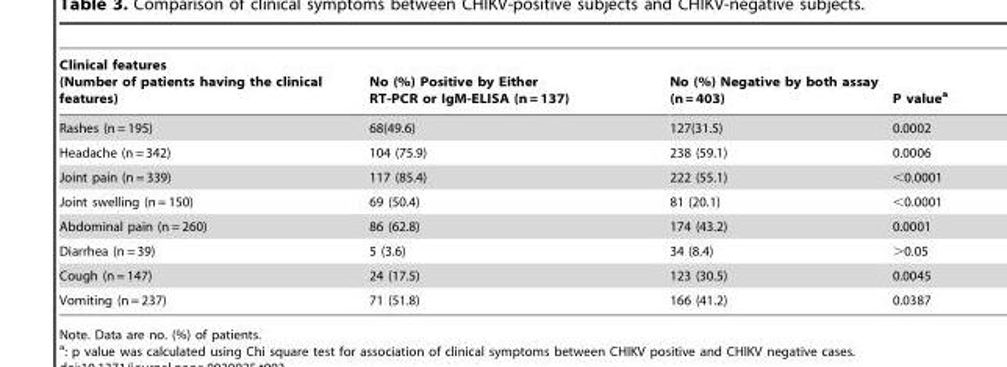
<table><thead><tr><td>Clinical features (Number of patients having the clinical features)</td><td>No (%) Positive by Either RT-PCR or IgM-ELISA (n = 137)</td><td>No (%) Negative by both assay (n = 403)</td><td>P value<sup>a</sup></td></tr></thead><tbody><tr><td>Rashes (n = 195)</td><td>68(49.6)</td><td>127(31.5)</td><td>0.0002</td></tr><tr><td>Headache (n = 342)</td><td>104 (75.9)</td><td>238 (59.1)</td><td>0.0006</td></tr><tr><td>Joint pain (n = 339)</td><td>117 (85.4)</td><td>222 (55.1)</td><td>&lt;0.0001</td></tr><tr><td>Joint swelling (n = 150)</td><td>69 (50.4)</td><td>81 (20.1)</td><td>&lt;0.0001</td></tr><tr><td>Abdominal pain (n = 260)</td><td>86 (62.8)</td><td>174 (43.2)</td><td>0.0001</td></tr><tr><td>Diarrhea (n = 39)</td><td>5 (3.6)</td><td>34 (8.4)</td><td>&gt;0.05</td></tr><tr><td>Cough (n = 147)</td><td>24 (17.5)</td><td>123 (30.5)</td><td>0.0045</td></tr><tr><td>Vomiting (n = 237)</td><td>71 (51.8)</td><td>166 (41.2)</td><td>0.0387</td></tr></tbody></table>